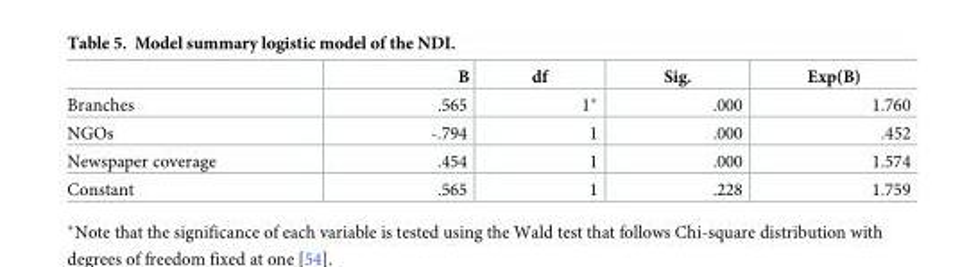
<table><thead><tr><td></td><td>B</td><td>df</td><td>Sig.</td><td>Exp(B)</td></tr></thead><tbody><tr><td>Branches</td><td>.565</td><td>1*</td><td>.000</td><td>1.760</td></tr><tr><td>NGOs</td><td>-.794</td><td>1</td><td>.000</td><td>.452</td></tr><tr><td>Newspaper coverage</td><td>.454</td><td>1</td><td>.000</td><td>1.574</td></tr><tr><td>Constant</td><td>.565</td><td>1</td><td>.228</td><td>1.759</td></tr></tbody></table>